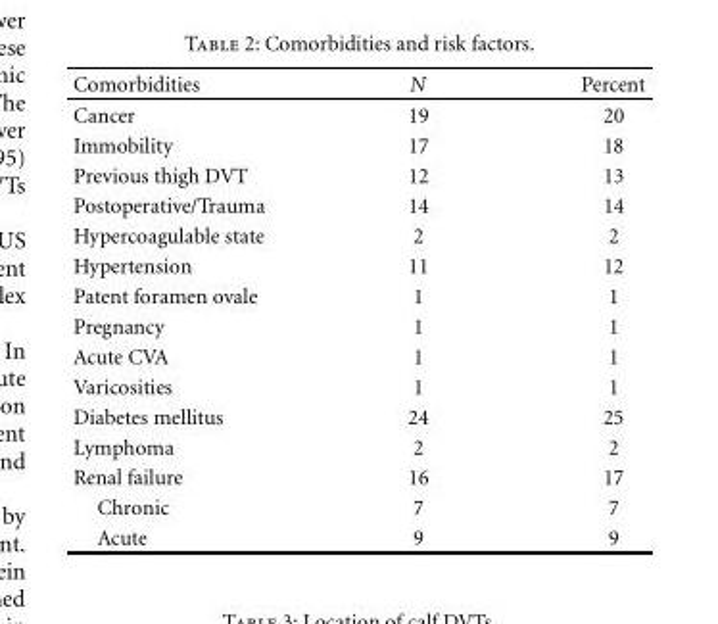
<table><thead><tr><td>Comorbidities</td><td>N</td><td>Percent</td></tr></thead><tbody><tr><td>Cancer</td><td>19</td><td>20</td></tr><tr><td>Immobility</td><td>17</td><td>18</td></tr><tr><td>Previous thigh DVT</td><td>12</td><td>13</td></tr><tr><td>Postoperative/Trauma</td><td>14</td><td>14</td></tr><tr><td>Hypercoagulable state</td><td>2</td><td>2</td></tr><tr><td>Hypertension</td><td>11</td><td>12</td></tr><tr><td>Patent foramen ovale</td><td>1</td><td>1</td></tr><tr><td>Pregnancy</td><td>1</td><td>1</td></tr><tr><td>Acute CVA</td><td>1</td><td>1</td></tr><tr><td>Varicosities</td><td>1</td><td>1</td></tr><tr><td>Diabetes mellitus</td><td>24</td><td>25</td></tr><tr><td>Lymphoma</td><td>2</td><td>2</td></tr><tr><td>Renal failure</td><td>16</td><td>17</td></tr><tr><td>Chronic</td><td>7</td><td>7</td></tr><tr><td>Acute</td><td>9</td><td>9</td></tr></tbody></table>